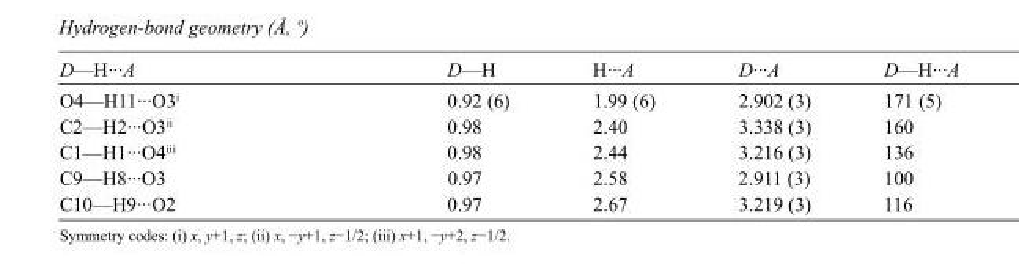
<table><tbody><tr><td>D—H···A</td><td>D—H</td><td>H···A</td><td>D···A</td><td>D—H···A</td></tr><tr><td>O4—H11···O3<sup>i</sup></td><td>0.92 (6)</td><td>1.99 (6)</td><td>2.902 (3)</td><td>171 (5)</td></tr><tr><td>C2—H2···O3<sup>ii</sup></td><td>0.98</td><td>2.40</td><td>3.338 (3)</td><td>160</td></tr><tr><td>C1—H1···O4<sup>iii</sup></td><td>0.98</td><td>2.44</td><td>3.216 (3)</td><td>136</td></tr><tr><td>C9—H8···O3</td><td>0.97</td><td>2.58</td><td>2.911 (3)</td><td>100</td></tr><tr><td>C10—H9···O2</td><td>0.97</td><td>2.67</td><td>3.219 (3)</td><td>116</td></tr></tbody></table>